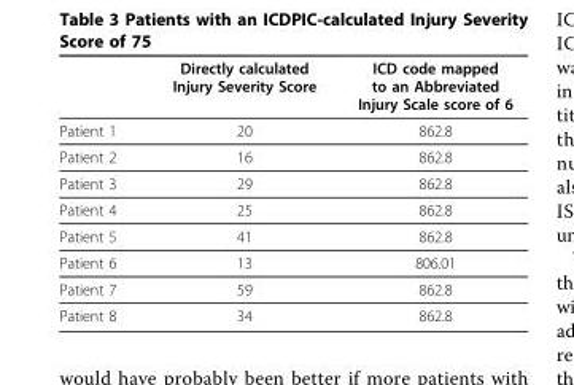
<table><thead><tr><td></td><td>Directly calculated Injury Severity Score</td><td>ICD code mapped to an Abbreviated Injury Scale score of 6</td></tr></thead><tbody><tr><td>Patient 1</td><td>20</td><td>862.8</td></tr><tr><td>Patient 2</td><td>16</td><td>862.8</td></tr><tr><td>Patient 3</td><td>29</td><td>862.8</td></tr><tr><td>Patient 4</td><td>25</td><td>862.8</td></tr><tr><td>Patient 5</td><td>41</td><td>862.8</td></tr><tr><td>Patient 6</td><td>13</td><td>806.01</td></tr><tr><td>Patient 7</td><td>59</td><td>862.8</td></tr><tr><td>Patient 8</td><td>34</td><td>862.8</td></tr></tbody></table>